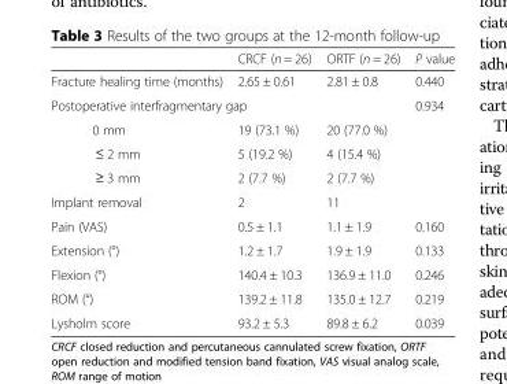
<table><thead><tr><td></td><td>CRCF (n = 26)</td><td>ORTF (n = 26)</td><td>P value</td></tr></thead><tbody><tr><td>Fracture healing time (months)</td><td>2.65 ± 0.61</td><td>2.81 ± 0.8</td><td>0.440</td></tr><tr><td colspan="2">Postoperative interfragmentary gap</td><td></td><td>0.934</td></tr><tr><td>0 mm</td><td>19 (73.1 %)</td><td>20 (77.0 %)</td><td></td></tr><tr><td>≤ 2 mm</td><td>5 (19.2 %)</td><td>4 (15.4 %)</td><td></td></tr><tr><td>≥ 3 mm</td><td>2 (7.7 %)</td><td>2 (7.7 %)</td><td></td></tr><tr><td>Implant removal</td><td>2</td><td>11</td><td></td></tr><tr><td>Pain (VAS)</td><td>0.5 ± 1.1</td><td>1.1 ± 1.9</td><td>0.160</td></tr><tr><td>Extension (°)</td><td>1.2 ± 1.7</td><td>1.9 ± 1.9</td><td>0.133</td></tr><tr><td>Flexion (°)</td><td>140.4 ± 10.3</td><td>136.9 ± 11.0</td><td>0.246</td></tr><tr><td>ROM (°)</td><td>139.2 ± 11.8</td><td>135.0 ± 12.7</td><td>0.219</td></tr><tr><td>Lysholm score</td><td>93.2 ± 5.3</td><td>89.8 ± 6.2</td><td>0.039</td></tr></tbody></table>